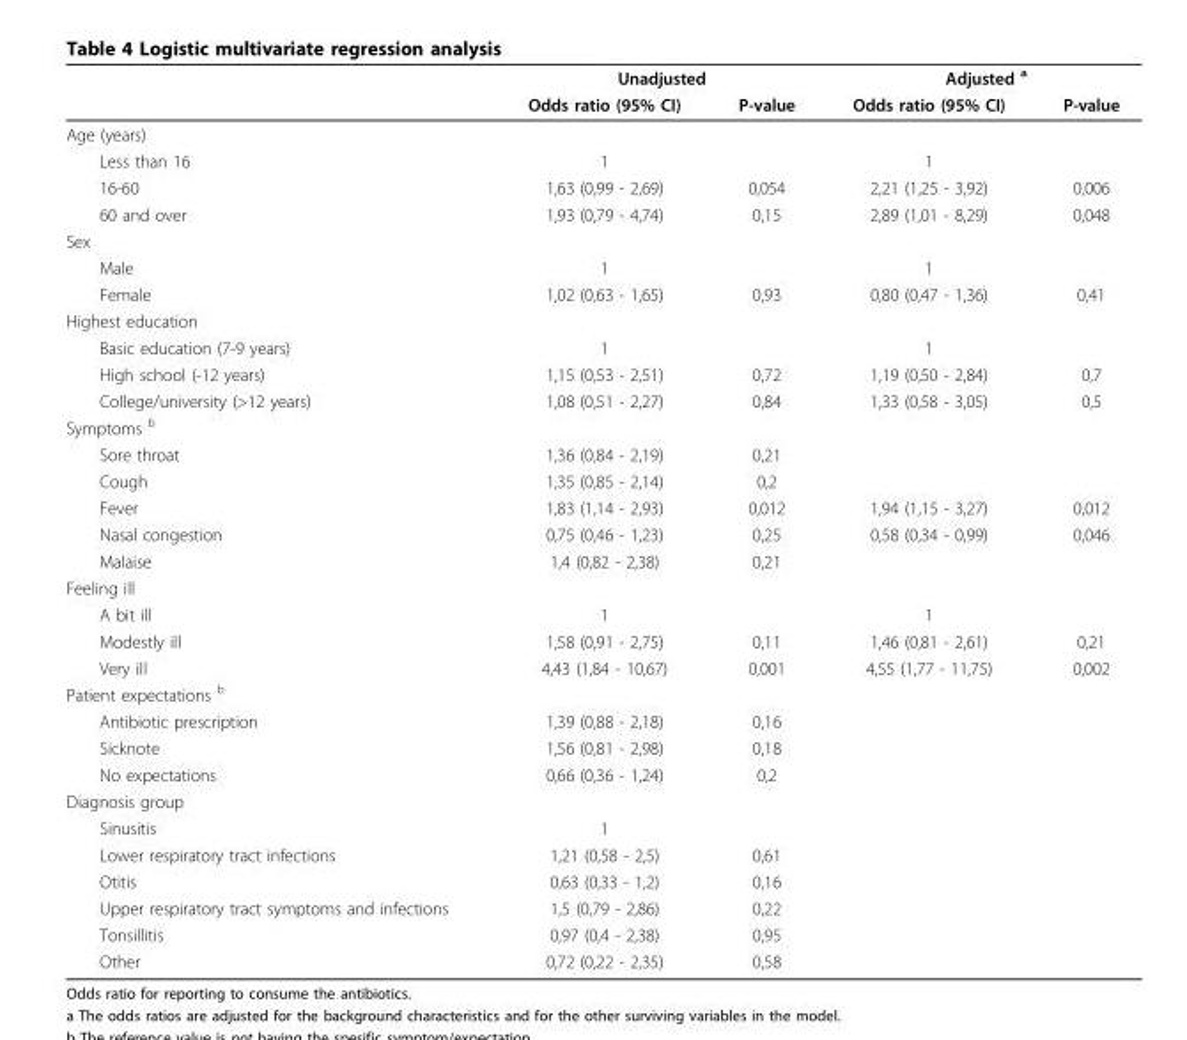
<table><thead><tr><td rowspan="2"></td><td colspan="2">Unadjusted</td><td colspan="2">Adjusted <sup>a</sup></td></tr><tr><td>Odds ratio (95% CI)</td><td>P-value</td><td>Odds ratio (95% CI)</td><td>P-value</td></tr></thead><tbody><tr><td colspan="5">Age (years)</td></tr><tr><td>Less than 16</td><td>1</td><td></td><td>1</td><td></td></tr><tr><td>16-60</td><td>1,63 (0,99 - 2,69)</td><td>0,054</td><td>2,21 (1,25 - 3,92)</td><td>0,006</td></tr><tr><td>60 and over</td><td>1,93 (0,79 - 4,74)</td><td>0,15</td><td>2,89 (1,01 - 8,29)</td><td>0,048</td></tr><tr><td colspan="5">Sex</td></tr><tr><td>Male</td><td>1</td><td></td><td>1</td><td></td></tr><tr><td>Female</td><td>1,02 (0,63 - 1,65)</td><td>0,93</td><td>0,80 (0,47 - 1,36)</td><td>0,41</td></tr><tr><td colspan="5">Highest education</td></tr><tr><td>Basic education (7-9 years)</td><td>1</td><td></td><td>1</td><td></td></tr><tr><td>High school (-12 years)</td><td>1,15 (0,53 - 2,51)</td><td>0,72</td><td>1,19 (0,50 - 2,84)</td><td>0,7</td></tr><tr><td>College/university (&gt;12 years)</td><td>1,08 (0,51 - 2,27)</td><td>0,84</td><td>1,33 (0,58 - 3,05)</td><td>0,5</td></tr><tr><td colspan="5">Symptoms <sup>b</sup></td></tr><tr><td>Sore throat</td><td>1,36 (0,84 - 2,19)</td><td>0,21</td><td></td><td></td></tr><tr><td>Cough</td><td>1,35 (0,85 - 2,14)</td><td>0,2</td><td></td><td></td></tr><tr><td>Fever</td><td>1,83 (1,14 - 2,93)</td><td>0,012</td><td>1,94 (1,15 - 3,27)</td><td>0,012</td></tr><tr><td>Nasal congestion</td><td>0,75 (0,46 - 1,23)</td><td>0,25</td><td>0,58 (0,34 - 0,99)</td><td>0,046</td></tr><tr><td>Malaise</td><td>1,4 (0,82 - 2,38)</td><td>0,21</td><td></td><td></td></tr><tr><td colspan="5">Feeling ill</td></tr><tr><td>A bit ill</td><td>1</td><td></td><td>1</td><td></td></tr><tr><td>Modestly ill</td><td>1,58 (0,91 - 2,75)</td><td>0,11</td><td>1,46 (0,81 - 2,61)</td><td>0,21</td></tr><tr><td>Very ill</td><td>4,43 (1,84 - 10,67)</td><td>0,001</td><td>4,55 (1,77 - 11,75)</td><td>0,002</td></tr><tr><td colspan="5">Patient expectations <sup>b</sup></td></tr><tr><td>Antibiotic prescription</td><td>1,39 (0,88 - 2,18)</td><td>0,16</td><td></td><td></td></tr><tr><td>Sicknote</td><td>1,56 (0,81 - 2,98)</td><td>0,18</td><td></td><td></td></tr><tr><td>No expectations</td><td>0,66 (0,36 - 1,24)</td><td>0,2</td><td></td><td></td></tr><tr><td colspan="5">Diagnosis group</td></tr><tr><td>Sinusitis</td><td>1</td><td></td><td></td><td></td></tr><tr><td>Lower respiratory tract infections</td><td>1,21 (0,58 - 2,5)</td><td>0,61</td><td></td><td></td></tr><tr><td>Otitis</td><td>0,63 (0,33 - 1,2)</td><td>0,16</td><td></td><td></td></tr><tr><td>Upper respiratory tract symptoms and infections</td><td>1,5 (0,79 - 2,86)</td><td>0,22</td><td></td><td></td></tr><tr><td>Tonsillitis</td><td>0,97 (0,4 - 2,38)</td><td>0,95</td><td></td><td></td></tr><tr><td>Other</td><td>0,72 (0,22 - 2,35)</td><td>0,58</td><td></td><td></td></tr></tbody></table>